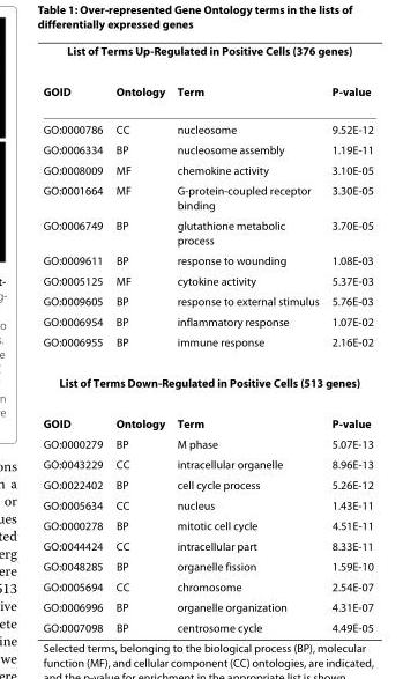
<table><thead><tr><td colspan="4">List of Terms Up-Regulated in Positive Cells (376 genes)</td></tr><tr><td>GOID</td><td>Ontology</td><td>Term</td><td>P-value</td></tr></thead><tbody><tr><td>GO:0000786</td><td>CC</td><td>nucleosome</td><td>9.52E-12</td></tr><tr><td>GO:0006334</td><td>BP</td><td>nucleosome assembly</td><td>1.19E-11</td></tr><tr><td>GO:0008009</td><td>MF</td><td>chemokine activity</td><td>3.10E-05</td></tr><tr><td>GO:0001664</td><td>MF</td><td>G-protein-coupled receptor binding</td><td>3.30E-05</td></tr><tr><td>GO:0006749</td><td>BP</td><td>glutathione metabolic process</td><td>3.70E-05</td></tr><tr><td>GO:0009611</td><td>BP</td><td>response to wounding</td><td>1.08E-03</td></tr><tr><td>GO:0005125</td><td>MF</td><td>cytokine activity</td><td>5.37E-03</td></tr><tr><td>GO:0009605</td><td>BP</td><td>response to external stimulus</td><td>5.76E-03</td></tr><tr><td>GO:0006954</td><td>BP</td><td>inflammatory response</td><td>1.07E-02</td></tr><tr><td>GO:0006955</td><td>BP</td><td>immune response</td><td>2.16E-02</td></tr><tr><td colspan="4">List of Terms Down-Regulated in Positive Cells (513 genes)</td></tr><tr><td>GOID</td><td>Ontology</td><td>Term</td><td>P-value</td></tr><tr><td>GO:0000279</td><td>BP</td><td>M phase</td><td>5.07E-13</td></tr><tr><td>GO:0043229</td><td>CC</td><td>intracellular organelle</td><td>8.96E-13</td></tr><tr><td>GO:0022402</td><td>BP</td><td>cell cycle process</td><td>5.26E-12</td></tr><tr><td>GO:0005634</td><td>CC</td><td>nucleus</td><td>1.43E-11</td></tr><tr><td>GO:0000278</td><td>BP</td><td>mitotic cell cycle</td><td>4.51E-11</td></tr><tr><td>GO:0044424</td><td>CC</td><td>intracellular part</td><td>8.33E-11</td></tr><tr><td>GO:0048285</td><td>BP</td><td>organelle fission</td><td>1.59E-10</td></tr><tr><td>GO:0005694</td><td>CC</td><td>chromosome</td><td>2.54E-07</td></tr><tr><td>GO:0006996</td><td>BP</td><td>organelle organization</td><td>4.31E-07</td></tr><tr><td>GO:0007098</td><td>BP</td><td>centrosome cycle</td><td>4.49E-05</td></tr></tbody></table>